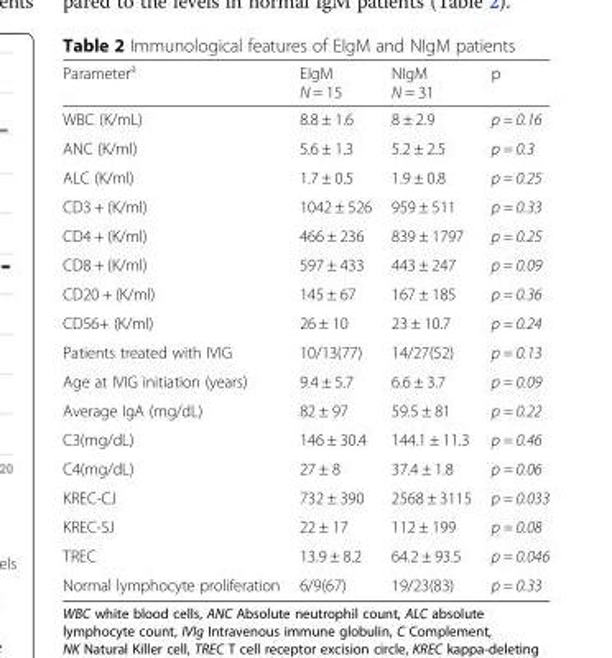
<table><thead><tr><td>Parameter<sup>a</sup></td><td>EIgM N = 15</td><td>NIgM N = 31</td><td>p</td></tr></thead><tbody><tr><td>WBC (K/mL)</td><td>8.8 ± 1.6</td><td>8 ± 2.9</td><td>p = 0.16</td></tr><tr><td>ANC (K/ml)</td><td>5.6 ± 1.3</td><td>5.2 ± 2.5</td><td>p = 0.3</td></tr><tr><td>ALC (K/ml)</td><td>1.7 ± 0.5</td><td>1.9 ± 0.8</td><td>p = 0.25</td></tr><tr><td>CD3 + (K/ml)</td><td>1042 ± 526</td><td>959 ± 511</td><td>p = 0.33</td></tr><tr><td>CD4 + (K/ml)</td><td>466 ± 236</td><td>839 ± 1797</td><td>p = 0.25</td></tr><tr><td>CD8 + (K/ml)</td><td>597 ± 433</td><td>443 ± 247</td><td>p = 0.09</td></tr><tr><td>CD20 + (K/ml)</td><td>145 ± 67</td><td>167 ± 185</td><td>p = 0.36</td></tr><tr><td>CD56+ (K/ml)</td><td>26 ± 10</td><td>23 ± 10.7</td><td>p = 0.24</td></tr><tr><td>Patients treated with IVIG</td><td>10/13(77)</td><td>14/27(52)</td><td>p = 0.13</td></tr><tr><td>Age at IVIG initiation (years)</td><td>9.4 ± 5.7</td><td>6.6 ± 3.7</td><td>p = 0.09</td></tr><tr><td>Average IgA (mg/dL)</td><td>82 ± 97</td><td>59.5 ± 81</td><td>p = 0.22</td></tr><tr><td>C3(mg/dL)</td><td>146 ± 30.4</td><td>144.1 ± 11.3</td><td>p = 0.46</td></tr><tr><td>C4(mg/dL)</td><td>27 ± 8</td><td>37.4 ± 1.8</td><td>p = 0.06</td></tr><tr><td>KREC-CJ</td><td>732 ± 390</td><td>2568 ± 3115</td><td>p = 0.033</td></tr><tr><td>KREC-SJ</td><td>22 ± 17</td><td>112 ± 199</td><td>p = 0.08</td></tr><tr><td>TREC</td><td>13.9 ± 8.2</td><td>64.2 ± 93.5</td><td>p = 0.046</td></tr><tr><td>Normal lymphocyte proliferation</td><td>6/9(67)</td><td>19/23(83)</td><td>p = 0.33</td></tr></tbody></table>